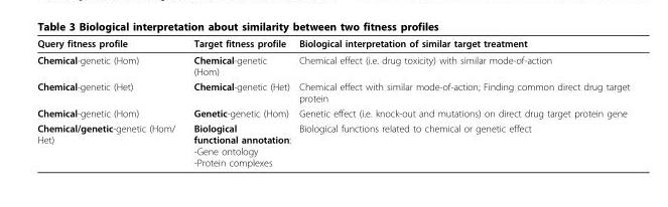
<table><thead><tr><td>Query fitness profile</td><td>Target fitness profile</td><td>Biological interpretation of similar target treatment</td></tr></thead><tbody><tr><td>Chemical-genetic (Hom)</td><td>Chemical-genetic (Hom)</td><td>Chemical effect (i.e. drug toxicity) with similar mode-of-action</td></tr><tr><td>Chemical-genetic (Het)</td><td>Chemical-genetic (Het)</td><td>Chemical effect with similar mode-of-action; Finding common direct drug target protein</td></tr><tr><td>Chemical-genetic (Hom)</td><td>Genetic-genetic (Hom)</td><td>Genetic effect (i.e. knock-out and mutations) on direct drug target protein gene</td></tr><tr><td>Chemical/genetic-genetic (Hom/ Het)</td><td>Biological functional annotation: -Gene ontology -Protein complexes</td><td>Biological functions related to chemical or genetic effect</td></tr></tbody></table>